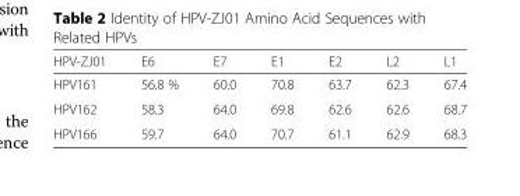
<table><thead><tr><td>HPV-ZJ01</td><td>E6</td><td>E7</td><td>E1</td><td>E2</td><td>L2</td><td>L1</td></tr></thead><tbody><tr><td>HPV161</td><td>56.8 %</td><td>60.0</td><td>70.8</td><td>63.7</td><td>62.3</td><td>67.4</td></tr><tr><td>HPV162</td><td>58.3</td><td>64.0</td><td>69.8</td><td>62.6</td><td>62.6</td><td>68.7</td></tr><tr><td>HPV166</td><td>59.7</td><td>64.0</td><td>70.7</td><td>61.1</td><td>62.9</td><td>68.3</td></tr></tbody></table>